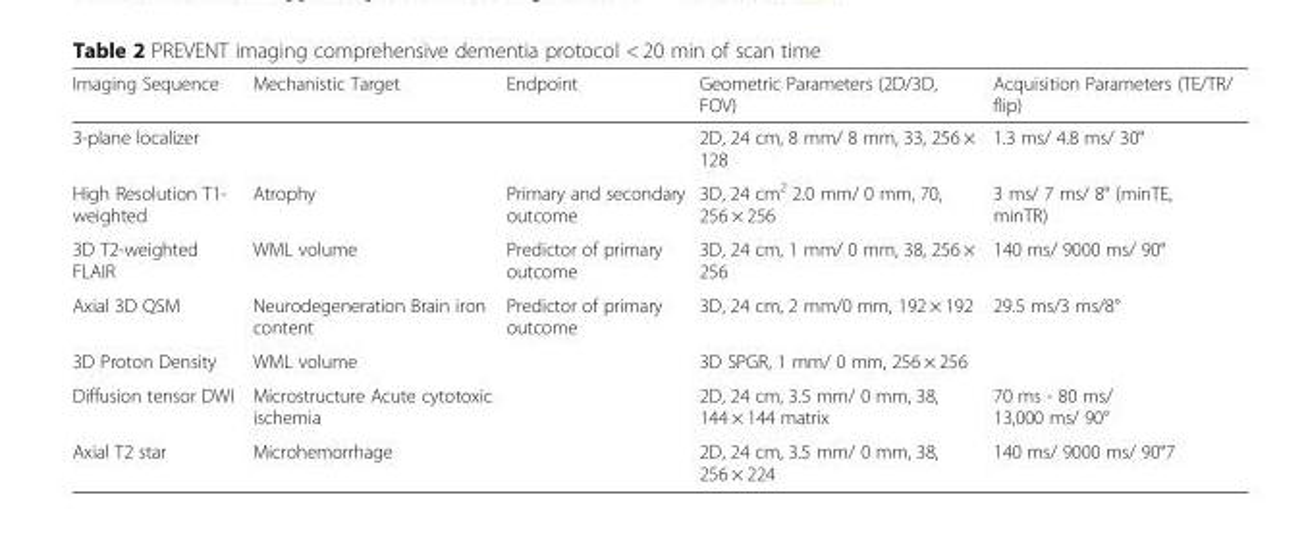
<table><thead><tr><td>Imaging Sequence</td><td>Mechanistic Target</td><td>Endpoint</td><td>Geometric Parameters (2D/3D, FOV)</td><td>Acquisition Parameters (TE/TR/ flip)</td></tr></thead><tbody><tr><td>3-plane localizer</td><td></td><td></td><td>2D, 24 cm, 8 mm/ 8 mm, 33, 256 × 128</td><td>1.3 ms/ 4.8 ms/ 30°</td></tr><tr><td>High Resolution T1- weighted</td><td>Atrophy</td><td>Primary and secondary outcome</td><td>3D, 24 cm<sup>2</sup> 2.0 mm/ 0 mm, 70, 256 × 256</td><td>3 ms/ 7 ms/ 8° (minTE, minTR)</td></tr><tr><td>3D T2-weighted FLAIR</td><td>WML volume</td><td>Predictor of primary outcome</td><td>3D, 24 cm, 1 mm/ 0 mm, 38, 256 × 256</td><td>140 ms/ 9000 ms/ 90°</td></tr><tr><td>Axial 3D QSM</td><td>Neurodegeneration Brain iron content</td><td>Predictor of primary outcome</td><td>3D, 24 cm, 2 mm/0 mm, 192 × 192</td><td>29.5 ms/3 ms/8°</td></tr><tr><td>3D Proton Density</td><td>WML volume</td><td></td><td>3D SPGR, 1 mm/ 0 mm, 256 × 256</td><td></td></tr><tr><td>Diffusion tensor DWI</td><td>Microstructure Acute cytotoxic ischemia</td><td></td><td>2D, 24 cm, 3.5 mm/ 0 mm, 38, 144 × 144 matrix</td><td>70 ms - 80 ms/ 13,000 ms/ 90°</td></tr><tr><td>Axial T2 star</td><td>Microhemorrhage</td><td></td><td>2D, 24 cm, 3.5 mm/ 0 mm, 38, 256 × 224</td><td>140 ms/ 9000 ms/ 90°7</td></tr></tbody></table>